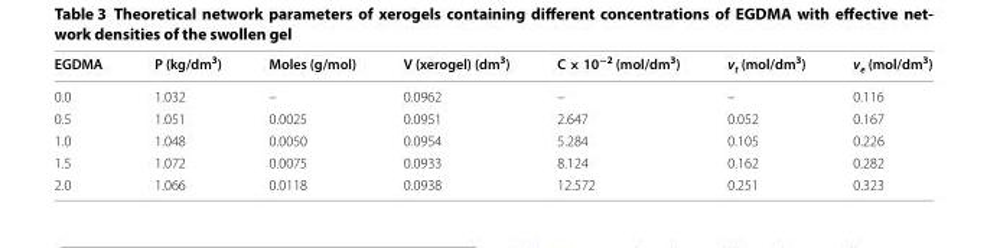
<table><thead><tr><td>EGDMA</td><td>P (kg/dm<sup>3</sup>)</td><td>Moles (g/mol)</td><td>V (xerogel) (dm<sup>3</sup>)</td><td>C × 10<sup>−2</sup> (mol/dm<sup>3</sup>)</td><td>v<sub>t</sub> (mol/dm<sup>3</sup>)</td><td>v<sub>e</sub> (mol/dm<sup>3</sup>)</td></tr></thead><tbody><tr><td>0.0</td><td>1.032</td><td>–</td><td>0.0962</td><td>–</td><td>–</td><td>0.116</td></tr><tr><td>0.5</td><td>1.051</td><td>0.0025</td><td>0.0951</td><td>2.647</td><td>0.052</td><td>0.167</td></tr><tr><td>1.0</td><td>1.048</td><td>0.0050</td><td>0.0954</td><td>5.284</td><td>0.105</td><td>0.226</td></tr><tr><td>1.5</td><td>1.072</td><td>0.0075</td><td>0.0933</td><td>8.124</td><td>0.162</td><td>0.282</td></tr><tr><td>2.0</td><td>1.066</td><td>0.0118</td><td>0.0938</td><td>12.572</td><td>0.251</td><td>0.323</td></tr></tbody></table>